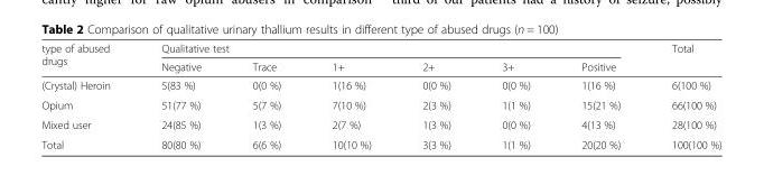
<table><thead><tr><td rowspan="2">type of abused drugs</td><td colspan="6">Qualitative test</td><td rowspan="2">Total</td></tr><tr><td>Negative</td><td>Trace</td><td>1+</td><td>2+</td><td>3+</td><td>Positive</td></tr></thead><tbody><tr><td>(Crystal) Heroin</td><td>5(83 %)</td><td>0(0 %)</td><td>1(16 %)</td><td>0(0 %)</td><td>0(0 %)</td><td>1(16 %)</td><td>6(100 %)</td></tr><tr><td>Opium</td><td>51(77 %)</td><td>5(7 %)</td><td>7(10 %)</td><td>2(3 %)</td><td>1(1 %)</td><td>15(21 %)</td><td>66(100 %)</td></tr><tr><td>Mixed user</td><td>24(85 %)</td><td>1(3 %)</td><td>2(7 %)</td><td>1(3 %)</td><td>0(0 %)</td><td>4(13 %)</td><td>28(100 %)</td></tr><tr><td>Total</td><td>80(80 %)</td><td>6(6 %)</td><td>10(10 %)</td><td>3(3 %)</td><td>1(1 %)</td><td>20(20 %)</td><td>100(100 %)</td></tr></tbody></table>